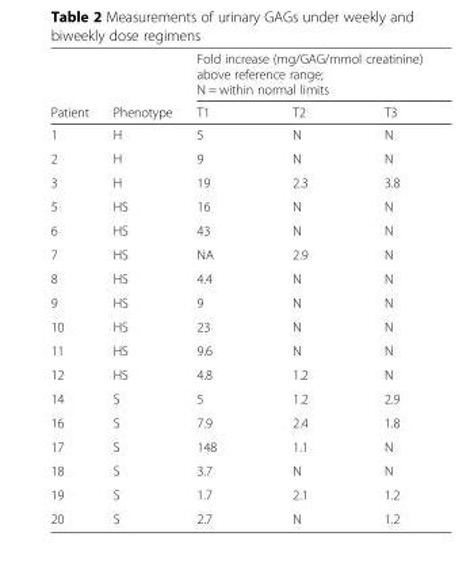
<table><thead><tr><td rowspan="2">Patient</td><td rowspan="2">Phenotype</td><td colspan="3">Fold increase (mg/GAG/mmol creatinine) above reference range; N = within normal limits</td></tr><tr><td>T1</td><td>T2</td><td>T3</td></tr></thead><tbody><tr><td>1</td><td>H</td><td>5</td><td>N</td><td>N</td></tr><tr><td>2</td><td>H</td><td>9</td><td>N</td><td>N</td></tr><tr><td>3</td><td>H</td><td>19</td><td>2.3</td><td>3.8</td></tr><tr><td>5</td><td>HS</td><td>16</td><td>N</td><td>N</td></tr><tr><td>6</td><td>HS</td><td>43</td><td>N</td><td>N</td></tr><tr><td>7</td><td>HS</td><td>NA</td><td>2.9</td><td>N</td></tr><tr><td>8</td><td>HS</td><td>4.4</td><td>N</td><td>N</td></tr><tr><td>9</td><td>HS</td><td>9</td><td>N</td><td>N</td></tr><tr><td>10</td><td>HS</td><td>23</td><td>N</td><td>N</td></tr><tr><td>11</td><td>HS</td><td>9.6</td><td>N</td><td>N</td></tr><tr><td>12</td><td>HS</td><td>4.8</td><td>1.2</td><td>N</td></tr><tr><td>14</td><td>S</td><td>5</td><td>1.2</td><td>2.9</td></tr><tr><td>16</td><td>S</td><td>7.9</td><td>2.4</td><td>1.8</td></tr><tr><td>17</td><td>S</td><td>148</td><td>1.1</td><td>N</td></tr><tr><td>18</td><td>S</td><td>3.7</td><td>N</td><td>N</td></tr><tr><td>19</td><td>S</td><td>1.7</td><td>2.1</td><td>1.2</td></tr><tr><td>20</td><td>S</td><td>2.7</td><td>N</td><td>1.2</td></tr></tbody></table>